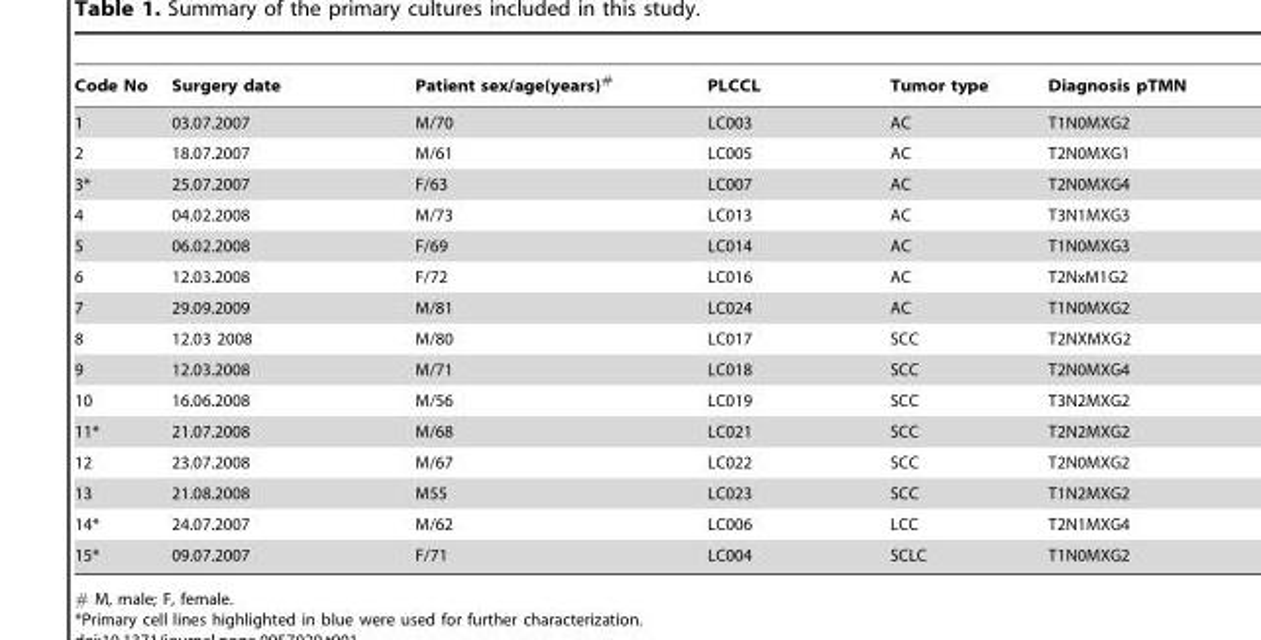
<table><thead><tr><td>Code No</td><td>Surgery date</td><td>Patient sex/age(years)#</td><td>PLCCL</td><td>Tumor type</td><td>Diagnosis pTMN</td></tr></thead><tbody><tr><td>1</td><td>03.07.2007</td><td>M/70</td><td>LC003</td><td>AC</td><td>T1N0MXG2</td></tr><tr><td>2</td><td>18.07.2007</td><td>M/61</td><td>LC005</td><td>AC</td><td>T2N0MXG1</td></tr><tr><td>3*</td><td>25.07.2007</td><td>F/63</td><td>LC007</td><td>AC</td><td>T2N0MXG4</td></tr><tr><td>4</td><td>04.02.2008</td><td>M/73</td><td>LC013</td><td>AC</td><td>T3N1MXG3</td></tr><tr><td>5</td><td>06.02.2008</td><td>F/69</td><td>LC014</td><td>AC</td><td>T1N0MXG3</td></tr><tr><td>6</td><td>12.03.2008</td><td>F/72</td><td>LC016</td><td>AC</td><td>T2NxM1G2</td></tr><tr><td>7</td><td>29.09.2009</td><td>M/81</td><td>LC024</td><td>AC</td><td>T1N0MXG2</td></tr><tr><td>8</td><td>12.03 2008</td><td>M/80</td><td>LC017</td><td>SCC</td><td>T2NXMXG2</td></tr><tr><td>9</td><td>12.03.2008</td><td>M/71</td><td>LC018</td><td>SCC</td><td>T2N0MXG4</td></tr><tr><td>10</td><td>16.06.2008</td><td>M/56</td><td>LC019</td><td>SCC</td><td>T3N2MXG2</td></tr><tr><td>11*</td><td>21.07.2008</td><td>M/68</td><td>LC021</td><td>SCC</td><td>T2N2MXG2</td></tr><tr><td>12</td><td>23.07.2008</td><td>M/67</td><td>LC022</td><td>SCC</td><td>T2N0MXG2</td></tr><tr><td>13</td><td>21.08.2008</td><td>M55</td><td>LC023</td><td>SCC</td><td>T1N2MXG2</td></tr><tr><td>14*</td><td>24.07.2007</td><td>M/62</td><td>LC006</td><td>LCC</td><td>T2N1MXG4</td></tr><tr><td>15*</td><td>09.07.2007</td><td>F/71</td><td>LC004</td><td>SCLC</td><td>T1N0MXG2</td></tr></tbody></table>